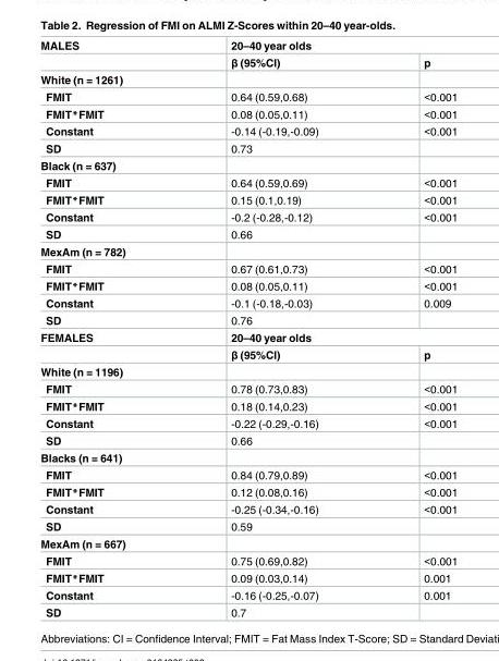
<table><tbody><tr><td rowspan="2">MALES</td><td colspan="2">20–40 year olds</td></tr><tr><td>β (95%CI)</td><td>p</td></tr><tr><td colspan="3">White (n = 1261)</td></tr><tr><td>FMIT</td><td>0.64 (0.59,0.68)</td><td>&lt;0.001</td></tr><tr><td>FMIT*FMIT</td><td>0.08 (0.05,0.11)</td><td>&lt;0.001</td></tr><tr><td>Constant</td><td>-0.14 (-0.19,-0.09)</td><td>&lt;0.001</td></tr><tr><td>SD</td><td>0.73</td><td></td></tr><tr><td colspan="3">Black (n = 637)</td></tr><tr><td>FMIT</td><td>0.64 (0.59,0.69)</td><td>&lt;0.001</td></tr><tr><td>FMIT*FMIT</td><td>0.15 (0.1,0.19)</td><td>&lt;0.001</td></tr><tr><td>Constant</td><td>-0.2 (-0.28,-0.12)</td><td>&lt;0.001</td></tr><tr><td>SD</td><td>0.66</td><td></td></tr><tr><td colspan="3">MexAm (n = 782)</td></tr><tr><td>FMIT</td><td>0.67 (0.61,0.73)</td><td>&lt;0.001</td></tr><tr><td>FMIT*FMIT</td><td>0.08 (0.05,0.11)</td><td>&lt;0.001</td></tr><tr><td>Constant</td><td>-0.1 (-0.18,-0.03)</td><td>0.009</td></tr><tr><td>SD</td><td>0.76</td><td></td></tr><tr><td rowspan="2">FEMALES</td><td colspan="2">20–40 year olds</td></tr><tr><td>β (95%CI)</td><td>p</td></tr><tr><td colspan="3">White (n = 1196)</td></tr><tr><td>FMIT</td><td>0.78 (0.73,0.83)</td><td>&lt;0.001</td></tr><tr><td>FMIT*FMIT</td><td>0.18 (0.14,0.23)</td><td>&lt;0.001</td></tr><tr><td>Constant</td><td>-0.22 (-0.29,-0.16)</td><td>&lt;0.001</td></tr><tr><td>SD</td><td>0.66</td><td></td></tr><tr><td colspan="3">Blacks (n = 641)</td></tr><tr><td>FMIT</td><td>0.84 (0.79,0.89)</td><td>&lt;0.001</td></tr><tr><td>FMIT*FMIT</td><td>0.12 (0.08,0.16)</td><td>&lt;0.001</td></tr><tr><td>Constant</td><td>-0.25 (-0.34,-0.16)</td><td>&lt;0.001</td></tr><tr><td>SD</td><td>0.59</td><td></td></tr><tr><td colspan="3">MexAm (n = 667)</td></tr><tr><td>FMIT</td><td>0.75 (0.69,0.82)</td><td>&lt;0.001</td></tr><tr><td>FMIT*FMIT</td><td>0.09 (0.03,0.14)</td><td>0.001</td></tr><tr><td>Constant</td><td>-0.16 (-0.25,-0.07)</td><td>0.001</td></tr><tr><td>SD</td><td>0.7</td><td></td></tr></tbody></table>